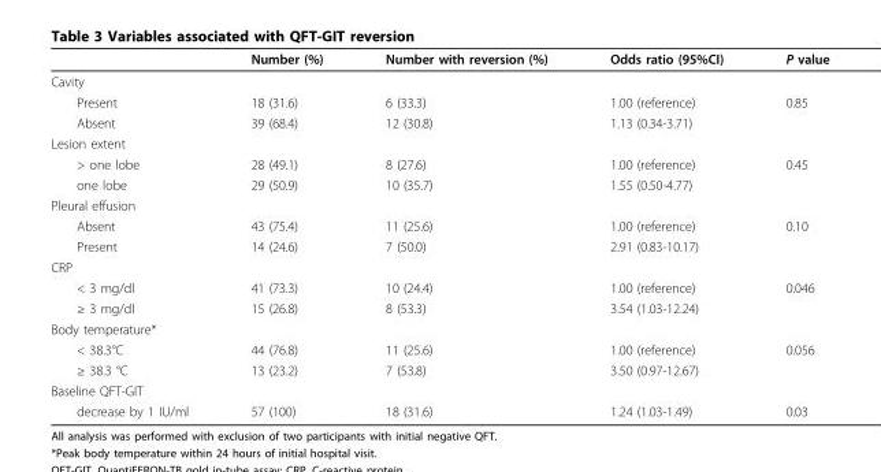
<table><thead><tr><td></td><td>Number (%)</td><td>Number with reversion (%)</td><td>Odds ratio (95%CI)</td><td>P value</td></tr></thead><tbody><tr><td colspan="5">Cavity</td></tr><tr><td>Present</td><td>18 (31.6)</td><td>6 (33.3)</td><td>1.00 (reference)</td><td>0.85</td></tr><tr><td>Absent</td><td>39 (68.4)</td><td>12 (30.8)</td><td>1.13 (0.34-3.71)</td><td></td></tr><tr><td colspan="5">Lesion extent</td></tr><tr><td>&gt; one lobe</td><td>28 (49.1)</td><td>8 (27.6)</td><td>1.00 (reference)</td><td>0.45</td></tr><tr><td>one lobe</td><td>29 (50.9)</td><td>10 (35.7)</td><td>1.55 (0.50-4.77)</td><td></td></tr><tr><td colspan="5">Pleural effusion</td></tr><tr><td>Absent</td><td>43 (75.4)</td><td>11 (25.6)</td><td>1.00 (reference)</td><td>0.10</td></tr><tr><td>Present</td><td>14 (24.6)</td><td>7 (50.0)</td><td>2.91 (0.83-10.17)</td><td></td></tr><tr><td colspan="5">CRP</td></tr><tr><td>&lt; 3 mg/dl</td><td>41 (73.3)</td><td>10 (24.4)</td><td>1.00 (reference)</td><td>0.046</td></tr><tr><td>≥ 3 mg/dl</td><td>15 (26.8)</td><td>8 (53.3)</td><td>3.54 (1.03-12.24)</td><td></td></tr><tr><td colspan="5">Body temperature*</td></tr><tr><td>&lt; 38.3°C</td><td>44 (76.8)</td><td>11 (25.6)</td><td>1.00 (reference)</td><td>0.056</td></tr><tr><td>≥ 38.3 °C</td><td>13 (23.2)</td><td>7 (53.8)</td><td>3.50 (0.97-12.67)</td><td></td></tr><tr><td colspan="5">Baseline QFT-GIT</td></tr><tr><td>decrease by 1 IU/ml</td><td>57 (100)</td><td>18 (31.6)</td><td>1.24 (1.03-1.49)</td><td>0.03</td></tr></tbody></table>